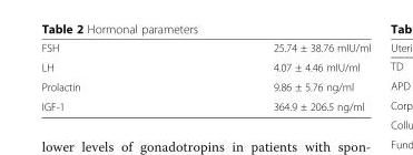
<table><tbody><tr><td>FSH</td><td>25.74 ± 38.76 mIU/ml</td></tr><tr><td>LH</td><td>4.07 ± 4.46 mIU/ml</td></tr><tr><td>Prolactin</td><td>9.86 ± 5.76 ng/ml</td></tr><tr><td>IGF-1</td><td>364.9 ± 206.5 ng/ml</td></tr></tbody></table>